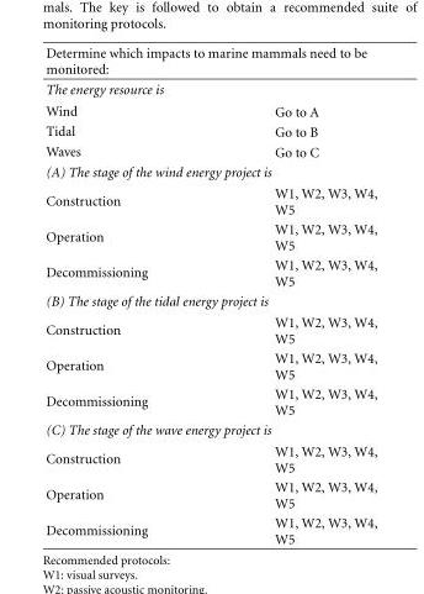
<table><thead><tr><td colspan="2">Determine which impacts to marine mammals need to be monitored:</td></tr><tr><td>The energy resource is</td><td></td></tr></thead><tbody><tr><td>Wind</td><td>Go to A</td></tr><tr><td>Tidal</td><td>Go to B</td></tr><tr><td>Waves</td><td>Go to C</td></tr><tr><td colspan="2">(A) The stage of the wind energy project is</td></tr><tr><td>Construction</td><td>W1, W2, W3, W4, W5</td></tr><tr><td>Operation</td><td>W1, W2, W3, W4, W5</td></tr><tr><td>Decommissioning</td><td>W1, W2, W3, W4, W5</td></tr><tr><td colspan="2">(B) The stage of the tidal energy project is</td></tr><tr><td>Construction</td><td>W1, W2, W3, W4, W5</td></tr><tr><td>Operation</td><td>W1, W2, W3, W4, W5</td></tr><tr><td>Decommissioning</td><td>W1, W2, W3, W4, W5</td></tr><tr><td colspan="2">(C) The stage of the wave energy project is</td></tr><tr><td>Construction</td><td>W1, W2, W3, W4, W5</td></tr><tr><td>Operation</td><td>W1, W2, W3, W4, W5</td></tr><tr><td>Decommissioning</td><td>W1, W2, W3, W4, W5</td></tr></tbody></table>